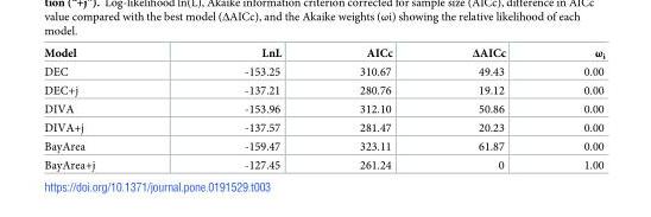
<table><thead><tr><td>Model</td><td>LnL</td><td>AICc</td><td>ΔAICc</td><td>ω<sub>i</sub></td></tr></thead><tbody><tr><td>DEC</td><td>-153.25</td><td>310.67</td><td>49.43</td><td>0.00</td></tr><tr><td>DEC+j</td><td>-137.21</td><td>280.76</td><td>19.12</td><td>0.00</td></tr><tr><td>DIVA</td><td>-153.96</td><td>312.10</td><td>50.86</td><td>0.00</td></tr><tr><td>DIVA+j</td><td>-137.57</td><td>281.47</td><td>20.23</td><td>0.00</td></tr><tr><td>BayArea</td><td>-159.47</td><td>323.11</td><td>61.87</td><td>0.00</td></tr><tr><td>BayArea+j</td><td>-127.45</td><td>261.24</td><td>0</td><td>1.00</td></tr></tbody></table>